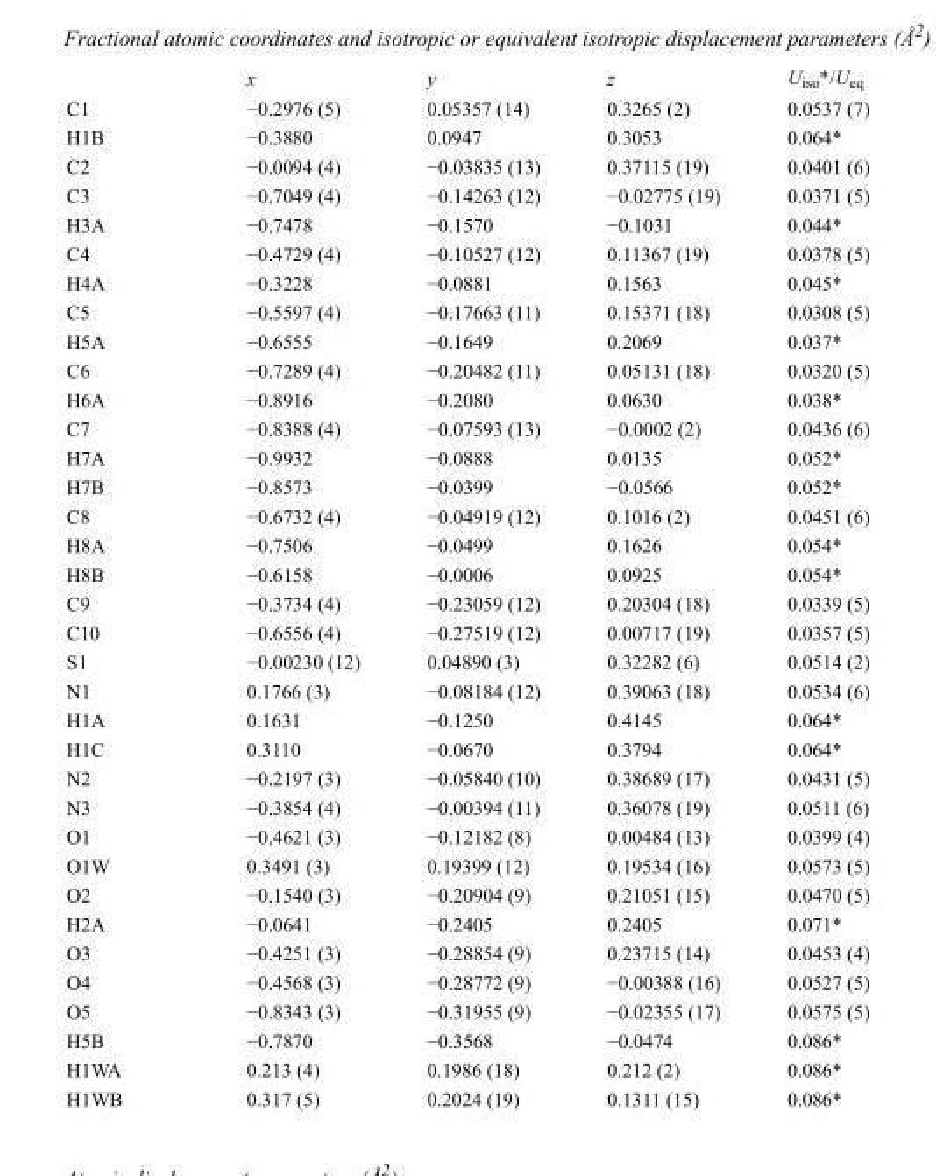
<table><thead><tr><td></td><td>x</td><td>y</td><td>z</td><td>U<sub>iso</sub>*/U<sub>eq</sub></td></tr></thead><tbody><tr><td>C1</td><td>−0.2976 (5)</td><td>0.05357 (14)</td><td>0.3265 (2)</td><td>0.0537 (7)</td></tr><tr><td>H1B</td><td>−0.3880</td><td>0.0947</td><td>0.3053</td><td>0.064*</td></tr><tr><td>C2</td><td>−0.0094 (4)</td><td>−0.03835 (13)</td><td>0.37115 (19)</td><td>0.0401 (6)</td></tr><tr><td>C3</td><td>−0.7049 (4)</td><td>−0.14263 (12)</td><td>−0.02775 (19)</td><td>0.0371 (5)</td></tr><tr><td>H3A</td><td>−0.7478</td><td>−0.1570</td><td>−0.1031</td><td>0.044*</td></tr><tr><td>C4</td><td>−0.4729 (4)</td><td>−0.10527 (12)</td><td>0.11367 (19)</td><td>0.0378 (5)</td></tr><tr><td>H4A</td><td>−0.3228</td><td>−0.0881</td><td>0.1563</td><td>0.045*</td></tr><tr><td>C5</td><td>−0.5597 (4)</td><td>−0.17663 (11)</td><td>0.15371 (18)</td><td>0.0308 (5)</td></tr><tr><td>H5A</td><td>−0.6555</td><td>−0.1649</td><td>0.2069</td><td>0.037*</td></tr><tr><td>C6</td><td>−0.7289 (4)</td><td>−0.20482 (11)</td><td>0.05131 (18)</td><td>0.0320 (5)</td></tr><tr><td>H6A</td><td>−0.8916</td><td>−0.2080</td><td>0.0630</td><td>0.038*</td></tr><tr><td>C7</td><td>−0.8388 (4)</td><td>−0.07593 (13)</td><td>−0.0002 (2)</td><td>0.0436 (6)</td></tr><tr><td>H7A</td><td>−0.9932</td><td>−0.0888</td><td>0.0135</td><td>0.052*</td></tr><tr><td>H7B</td><td>−0.8573</td><td>−0.0399</td><td>−0.0566</td><td>0.052*</td></tr><tr><td>C8</td><td>−0.6732 (4)</td><td>−0.04919 (12)</td><td>0.1016 (2)</td><td>0.0451 (6)</td></tr><tr><td>H8A</td><td>−0.7506</td><td>−0.0499</td><td>0.1626</td><td>0.054*</td></tr><tr><td>H8B</td><td>−0.6158</td><td>−0.0006</td><td>0.0925</td><td>0.054*</td></tr><tr><td>C9</td><td>−0.3734 (4)</td><td>−0.23059 (12)</td><td>0.20304 (18)</td><td>0.0339 (5)</td></tr><tr><td>C10</td><td>−0.6556 (4)</td><td>−0.27519 (12)</td><td>0.00717 (19)</td><td>0.0357 (5)</td></tr><tr><td>S1</td><td>−0.00230 (12)</td><td>0.04890 (3)</td><td>0.32282 (6)</td><td>0.0514 (2)</td></tr><tr><td>N1</td><td>0.1766 (3)</td><td>−0.08184 (12)</td><td>0.39063 (18)</td><td>0.0534 (6)</td></tr><tr><td>H1A</td><td>0.1631</td><td>−0.1250</td><td>0.4145</td><td>0.064*</td></tr><tr><td>H1C</td><td>0.3110</td><td>−0.0670</td><td>0.3794</td><td>0.064*</td></tr><tr><td>N2</td><td>−0.2197 (3)</td><td>−0.05840 (10)</td><td>0.38689 (17)</td><td>0.0431 (5)</td></tr><tr><td>N3</td><td>−0.3854 (4)</td><td>−0.00394 (11)</td><td>0.36078 (19)</td><td>0.0511 (6)</td></tr><tr><td>O1</td><td>−0.4621 (3)</td><td>−0.12182 (8)</td><td>0.00484 (13)</td><td>0.0399 (4)</td></tr><tr><td>O1W</td><td>0.3491 (3)</td><td>0.19399 (12)</td><td>0.19534 (16)</td><td>0.0573 (5)</td></tr><tr><td>O2</td><td>−0.1540 (3)</td><td>−0.20904 (9)</td><td>0.21051 (15)</td><td>0.0470 (5)</td></tr><tr><td>H2A</td><td>−0.0641</td><td>−0.2405</td><td>0.2405</td><td>0.071*</td></tr><tr><td>O3</td><td>−0.4251 (3)</td><td>−0.28854 (9)</td><td>0.23715 (14)</td><td>0.0453 (4)</td></tr><tr><td>O4</td><td>−0.4568 (3)</td><td>−0.28772 (9)</td><td>−0.00388 (16)</td><td>0.0527 (5)</td></tr><tr><td>O5</td><td>−0.8343 (3)</td><td>−0.31955 (9)</td><td>−0.02355 (17)</td><td>0.0575 (5)</td></tr><tr><td>H5B</td><td>−0.7870</td><td>−0.3568</td><td>−0.0474</td><td>0.086*</td></tr><tr><td>H1WA</td><td>0.213 (4)</td><td>0.1986 (18)</td><td>0.212 (2)</td><td>0.086*</td></tr><tr><td>H1WB</td><td>0.317 (5)</td><td>0.2024 (19)</td><td>0.1311 (15)</td><td>0.086*</td></tr></tbody></table>